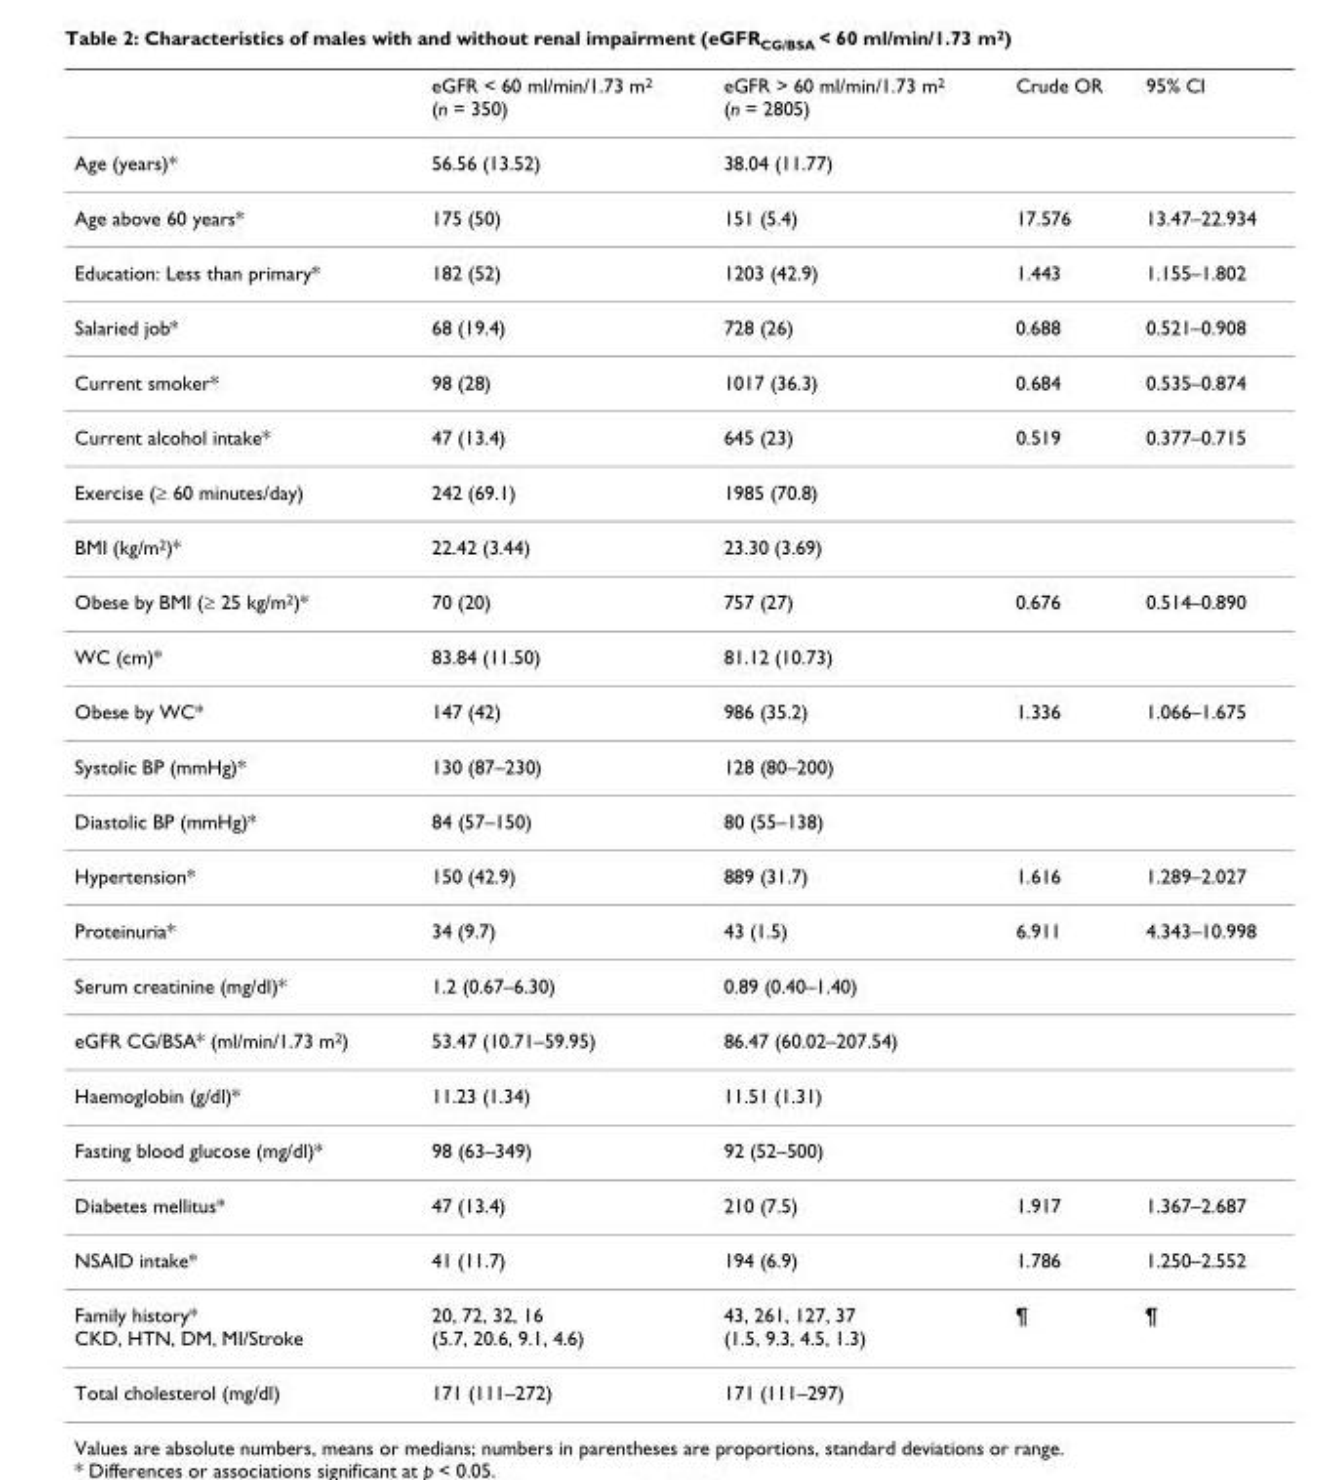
<table><thead><tr><td></td><td>eGFR &lt; 60 ml/min/1.73 m<sup>2</sup> (n = 350)</td><td>eGFR &gt; 60 ml/min/1.73 m<sup>2</sup> (n = 2805)</td><td>Crude OR</td><td>95% CI</td></tr></thead><tbody><tr><td>Age (years)*</td><td>56.56 (13.52)</td><td>38.04 (11.77)</td><td></td><td></td></tr><tr><td>Age above 60 years*</td><td>175 (50)</td><td>151 (5.4)</td><td>17.576</td><td>13.47–22.934</td></tr><tr><td>Education: Less than primary*</td><td>182 (52)</td><td>1203 (42.9)</td><td>1.443</td><td>1.155–1.802</td></tr><tr><td>Salaried job*</td><td>68 (19.4)</td><td>728 (26)</td><td>0.688</td><td>0.521–0.908</td></tr><tr><td>Current smoker*</td><td>98 (28)</td><td>1017 (36.3)</td><td>0.684</td><td>0.535–0.874</td></tr><tr><td>Current alcohol intake*</td><td>47 (13.4)</td><td>645 (23)</td><td>0.519</td><td>0.377–0.715</td></tr><tr><td>Exercise (≥ 60 minutes/day)</td><td>242 (69.1)</td><td>1985 (70.8)</td><td></td><td></td></tr><tr><td>BMI (kg/m<sup>2</sup>)*</td><td>22.42 (3.44)</td><td>23.30 (3.69)</td><td></td><td></td></tr><tr><td>Obese by BMI (≥ 25 kg/m<sup>2</sup>)*</td><td>70 (20)</td><td>757 (27)</td><td>0.676</td><td>0.514–0.890</td></tr><tr><td>WC (cm)*</td><td>83.84 (11.50)</td><td>81.12 (10.73)</td><td></td><td></td></tr><tr><td>Obese by WC*</td><td>147 (42)</td><td>986 (35.2)</td><td>1.336</td><td>1.066–1.675</td></tr><tr><td>Systolic BP (mmHg)*</td><td>130 (87–230)</td><td>128 (80–200)</td><td></td><td></td></tr><tr><td>Diastolic BP (mmHg)*</td><td>84 (57–150)</td><td>80 (55–138)</td><td></td><td></td></tr><tr><td>Hypertension*</td><td>150 (42.9)</td><td>889 (31.7)</td><td>1.616</td><td>1.289–2.027</td></tr><tr><td>Proteinuria*</td><td>34 (9.7)</td><td>43 (1.5)</td><td>6.911</td><td>4.343–10.998</td></tr><tr><td>Serum creatinine (mg/dl)*</td><td>1.2 (0.67–6.30)</td><td>0.89 (0.40–1.40)</td><td></td><td></td></tr><tr><td>eGFR CG/BSA* (ml/min/1.73 m<sup>2</sup>)</td><td>53.47 (10.71–59.95)</td><td>86.47 (60.02–207.54)</td><td></td><td></td></tr><tr><td>Haemoglobin (g/dl)*</td><td>11.23 (1.34)</td><td>11.51 (1.31)</td><td></td><td></td></tr><tr><td>Fasting blood glucose (mg/dl)*</td><td>98 (63–349)</td><td>92 (52–500)</td><td></td><td></td></tr><tr><td>Diabetes mellitus*</td><td>47 (13.4)</td><td>210 (7.5)</td><td>1.917</td><td>1.367–2.687</td></tr><tr><td>NSAID intake*</td><td>41 (11.7)</td><td>194 (6.9)</td><td>1.786</td><td>1.250–2.552</td></tr><tr><td>Family history* CKD, HTN, DM, MI/Stroke</td><td>20, 72, 32, 16 (5.7, 20.6, 9.1, 4.6)</td><td>43, 261, 127, 37 (1.5, 9.3, 4.5, 1.3)</td><td>¶</td><td>¶</td></tr><tr><td>Total cholesterol (mg/dl)</td><td>171 (111–272)</td><td>171 (111–297)</td><td></td><td></td></tr></tbody></table>